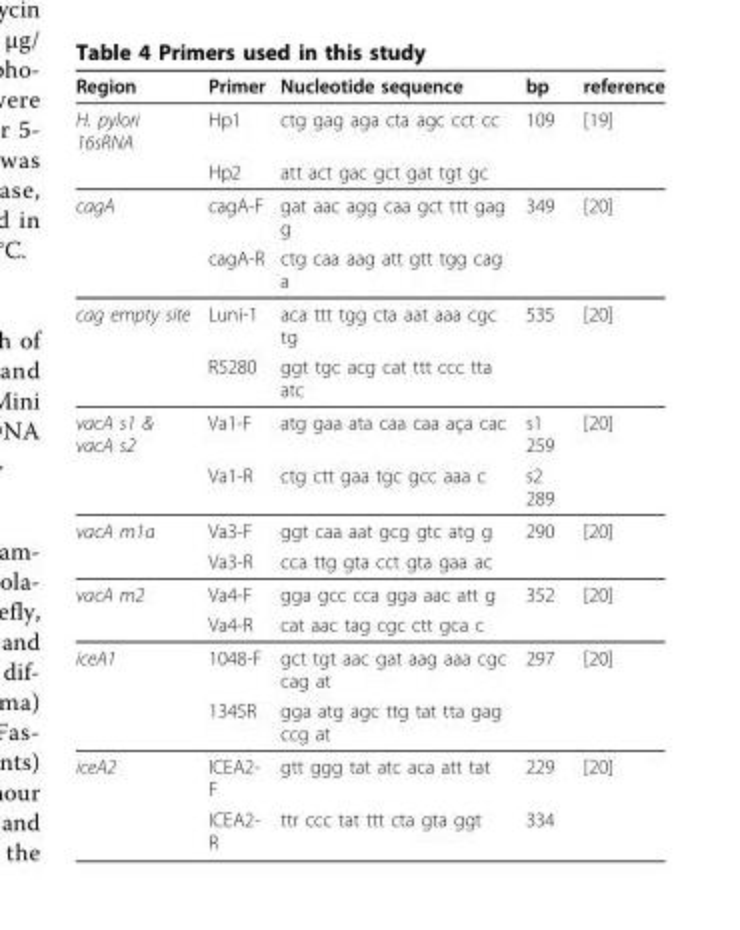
<table><thead><tr><td>Region</td><td>Primer</td><td>Nucleotide sequence</td><td>bp</td><td>reference</td></tr></thead><tbody><tr><td rowspan="2">H. pylori 16sRNA</td><td>Hp1</td><td>ctg gag aga cta agc cct cc</td><td>109</td><td>[19]</td></tr><tr><td>Hp2</td><td>att act gac gct gat tgt gc</td><td></td><td></td></tr><tr><td rowspan="2">cagA</td><td>cagA-F</td><td>gat aac agg caa gct ttt gag g</td><td>349</td><td>[20]</td></tr><tr><td>cagA-R</td><td>ctg caa aag att gtt tgg cag a</td><td></td><td></td></tr><tr><td rowspan="2">cag empty site</td><td>Luni-1</td><td>aca ttt tgg cta aat aaa cgc tg</td><td>535</td><td>[20]</td></tr><tr><td>R5280</td><td>ggt tgc acg cat ttt ccc tta atc</td><td></td><td></td></tr><tr><td rowspan="2">vacA s1 &amp; vacA s2</td><td>Va1-F</td><td>atg gaa ata caa caa aça cac</td><td>s1 259</td><td>[20]</td></tr><tr><td>Va1-R</td><td>ctg ctt gaa tgc gcc aaa c</td><td>s2 289</td><td></td></tr><tr><td rowspan="2">vacA m1a</td><td>Va3-F</td><td>ggt caa aat gcg gtc atg g</td><td>290</td><td>[20]</td></tr><tr><td>Va3-R</td><td>cca ttg gta cct gta gaa ac</td><td></td><td></td></tr><tr><td rowspan="2">vacA m2</td><td>Va4-F</td><td>gga gcc cca gga aac att g</td><td>352</td><td>[20]</td></tr><tr><td>Va4-R</td><td>cat aac tag cgc ctt gca c</td><td></td><td></td></tr><tr><td rowspan="2">iceA1</td><td>1048-F</td><td>gct tgt aac gat aag aaa cgc cag at</td><td>297</td><td>[20]</td></tr><tr><td>1345R</td><td>gga atg agc ttg tat tta gag ccg at</td><td></td><td></td></tr><tr><td rowspan="2">iceA2</td><td>ICEA2- F</td><td>gtt ggg tat atc aca att tat</td><td>229</td><td>[20]</td></tr><tr><td>ICEA2- R</td><td>ttr ccc tat ttt cta gta ggt</td><td>334</td><td></td></tr></tbody></table>